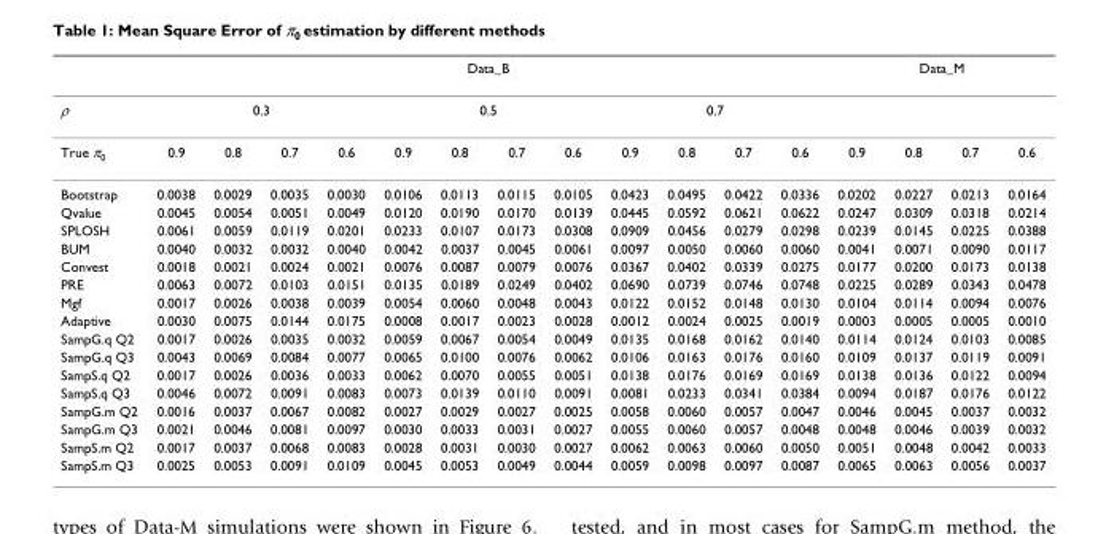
<table><thead><tr><td rowspan="3">ρ True π<sub>0</sub></td><td colspan="12">Data_B</td><td colspan="4">Data_M</td></tr><tr><td colspan="4">0.3</td><td colspan="4">0.5</td><td colspan="4">0.7</td><td rowspan="2">0.9</td><td rowspan="2">0.8</td><td rowspan="2">0.7</td><td rowspan="2">0.6</td></tr><tr><td>0.9</td><td>0.8</td><td>0.7</td><td>0.6</td><td>0.9</td><td>0.8</td><td>0.7</td><td>0.6</td><td>0.9</td><td>0.8</td><td>0.7</td><td>0.6</td></tr></thead><tbody><tr><td>Bootstrap</td><td>0.0038</td><td>0.0029</td><td>0.0035</td><td>0.0030</td><td>0.0106</td><td>0.0113</td><td>0.0115</td><td>0.0105</td><td>0.0423</td><td>0.0495</td><td>0.0422</td><td>0.0336</td><td>0.0202</td><td>0.0227</td><td>0.0213</td><td>0.0164</td></tr><tr><td>Qvalue</td><td>0.0045</td><td>0.0054</td><td>0.0051</td><td>0.0049</td><td>0.0120</td><td>0.0190</td><td>0.0170</td><td>0.0139</td><td>0.0445</td><td>0.0592</td><td>0.0621</td><td>0.0622</td><td>0.0247</td><td>0.0309</td><td>0.0318</td><td>0.0214</td></tr><tr><td>SPLOSH</td><td>0.0061</td><td>0.0059</td><td>0.0119</td><td>0.0201</td><td>0.0233</td><td>0.0107</td><td>0.0173</td><td>0.0308</td><td>0.0909</td><td>0.0456</td><td>0.0279</td><td>0.0298</td><td>0.0239</td><td>0.0145</td><td>0.0225</td><td>0.0388</td></tr><tr><td>BUM</td><td>0.0040</td><td>0.0032</td><td>0.0032</td><td>0.0040</td><td>0.0042</td><td>0.0037</td><td>0.0045</td><td>0.0061</td><td>0.0097</td><td>0.0050</td><td>0.0060</td><td>0.0060</td><td>0.0041</td><td>0.0071</td><td>0.0090</td><td>0.0117</td></tr><tr><td>Convest</td><td>0.0018</td><td>0.0021</td><td>0.0024</td><td>0.0021</td><td>0.0076</td><td>0.0087</td><td>0.0079</td><td>0.0076</td><td>0.0367</td><td>0.0402</td><td>0.0339</td><td>0.0275</td><td>0.0177</td><td>0.0200</td><td>0.0173</td><td>0.0138</td></tr><tr><td>PRE</td><td>0.0063</td><td>0.0072</td><td>0.0103</td><td>0.0151</td><td>0.0135</td><td>0.0189</td><td>0.0249</td><td>0.0402</td><td>0.0690</td><td>0.0739</td><td>0.0746</td><td>0.0748</td><td>0.0225</td><td>0.0289</td><td>0.0343</td><td>0.0478</td></tr><tr><td>Mgf</td><td>0.0017</td><td>0.0026</td><td>0.0038</td><td>0.0039</td><td>0.0054</td><td>0.0060</td><td>0.0048</td><td>0.0043</td><td>0.0122</td><td>0.0152</td><td>0.0148</td><td>0.0130</td><td>0.0104</td><td>0.0114</td><td>0.0094</td><td>0.0076</td></tr><tr><td>Adaptive</td><td>0.0030</td><td>0.0075</td><td>0.0144</td><td>0.0175</td><td>0.0008</td><td>0.0017</td><td>0.0023</td><td>0.0028</td><td>0.0012</td><td>0.0024</td><td>0.0025</td><td>0.0019</td><td>0.0003</td><td>0.0005</td><td>0.0005</td><td>0.0010</td></tr><tr><td>SampG.q Q2</td><td>0.0017</td><td>0.0026</td><td>0.0035</td><td>0.0032</td><td>0.0059</td><td>0.0067</td><td>0.0054</td><td>0.0049</td><td>0.0135</td><td>0.0168</td><td>0.0162</td><td>0.0140</td><td>0.0114</td><td>0.0124</td><td>0.0103</td><td>0.0085</td></tr><tr><td>SampG.q Q3</td><td>0.0043</td><td>0.0069</td><td>0.0084</td><td>0.0077</td><td>0.0065</td><td>0.0100</td><td>0.0076</td><td>0.0062</td><td>0.0106</td><td>0.0163</td><td>0.0176</td><td>0.0160</td><td>0.0109</td><td>0.0137</td><td>0.0119</td><td>0.0091</td></tr><tr><td>SampS.q Q2</td><td>0.0017</td><td>0.0026</td><td>0.0036</td><td>0.0033</td><td>0.0062</td><td>0.0070</td><td>0.0055</td><td>0.0051</td><td>0.0138</td><td>0.0176</td><td>0.0169</td><td>0.0169</td><td>0.0138</td><td>0.0136</td><td>0.0122</td><td>0.0094</td></tr><tr><td>SampS.q Q3</td><td>0.0046</td><td>0.0072</td><td>0.0091</td><td>0.0083</td><td>0.0073</td><td>0.0139</td><td>0.0110</td><td>0.0091</td><td>0.0081</td><td>0.0233</td><td>0.0341</td><td>0.0384</td><td>0.0094</td><td>0.0187</td><td>0.0176</td><td>0.0122</td></tr><tr><td>SampG.m Q2</td><td>0.0016</td><td>0.0037</td><td>0.0067</td><td>0.0082</td><td>0.0027</td><td>0.0029</td><td>0.0027</td><td>0.0025</td><td>0.0058</td><td>0.0060</td><td>0.0057</td><td>0.0047</td><td>0.0046</td><td>0.0045</td><td>0.0037</td><td>0.0032</td></tr><tr><td>SampG.m Q3</td><td>0.0021</td><td>0.0046</td><td>0.0081</td><td>0.0097</td><td>0.0030</td><td>0.0033</td><td>0.0031</td><td>0.0027</td><td>0.0055</td><td>0.0060</td><td>0.0057</td><td>0.0048</td><td>0.0048</td><td>0.0046</td><td>0.0039</td><td>0.0032</td></tr><tr><td>SampS.m Q2</td><td>0.0017</td><td>0.0037</td><td>0.0068</td><td>0.0083</td><td>0.0028</td><td>0.0031</td><td>0.0030</td><td>0.0027</td><td>0.0062</td><td>0.0063</td><td>0.0060</td><td>0.0050</td><td>0.0051</td><td>0.0048</td><td>0.0042</td><td>0.0033</td></tr><tr><td>SampS.m Q3</td><td>0.0025</td><td>0.0053</td><td>0.0091</td><td>0.0109</td><td>0.0045</td><td>0.0053</td><td>0.0049</td><td>0.0044</td><td>0.0059</td><td>0.0098</td><td>0.0097</td><td>0.0087</td><td>0.0065</td><td>0.0063</td><td>0.0056</td><td>0.0037</td></tr></tbody></table>